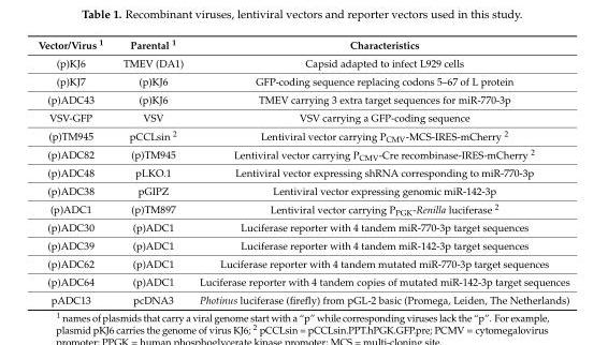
<table><thead><tr><td>Vector/Virus <sup>1</sup></td><td>Parental <sup>1</sup></td><td>Characteristics</td></tr></thead><tbody><tr><td>(p)KJ6</td><td>TMEV (DA1)</td><td>Capsid adapted to infect L929 cells</td></tr><tr><td>(p)KJ7</td><td>(p)KJ6</td><td>GFP-coding sequence replacing codons 5–67 of L protein</td></tr><tr><td>(p)ADC43</td><td>(p)KJ6</td><td>TMEV carrying 3 extra target sequences for miR-770-3p</td></tr><tr><td>VSV-GFP</td><td>VSV</td><td>VSV carrying a GFP-coding sequence</td></tr><tr><td>(p)TM945</td><td>pCCLsin <sup>2</sup></td><td>Lentiviral vector carrying P<sub>CMV</sub>-MCS-IRES-mCherry <sup>2</sup></td></tr><tr><td>(p)ADC82</td><td>(p)TM945</td><td>Lentiviral vector carrying P<sub>CMV</sub>-Cre recombinase-IRES-mCherry <sup>2</sup></td></tr><tr><td>(p)ADC48</td><td>pLKO.1</td><td>Lentiviral vector expressing shRNA corresponding to miR-770-3p</td></tr><tr><td>(p)ADC38</td><td>pGIPZ</td><td>Lentiviral vector expressing genomic miR-142-3p</td></tr><tr><td>(p)ADC1</td><td>(p)TM897</td><td>Lentiviral vector carrying P<sub>PGK</sub>-Renilla luciferase <sup>2</sup></td></tr><tr><td>(p)ADC30</td><td>(p)ADC1</td><td>Luciferase reporter with 4 tandem miR-770-3p target sequences</td></tr><tr><td>(p)ADC39</td><td>(p)ADC1</td><td>Luciferase reporter with 4 tandem miR-142-3p target sequences</td></tr><tr><td>(p)ADC62</td><td>(p)ADC1</td><td>Luciferase reporter with 4 tandem mutated miR-770-3p target sequences</td></tr><tr><td>(p)ADC64</td><td>(p)ADC1</td><td>Luciferase reporter with 4 tandem copies of mutated miR-142-3p target sequences</td></tr><tr><td>pADC13</td><td>pcDNA3</td><td>Photinus luciferase (firefly) from pGL-2 basic (Promega, Leiden, The Netherlands)</td></tr></tbody></table>